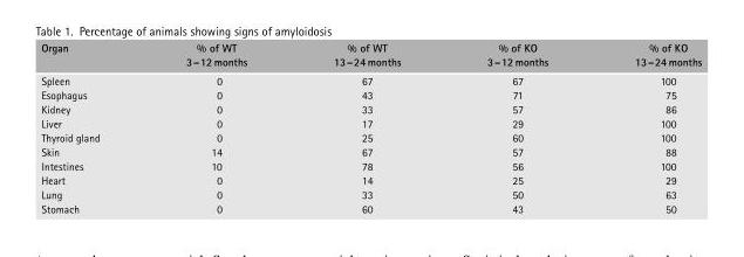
<table><thead><tr><td rowspan="2">Organ</td><td rowspan="2">% of WT 3–12 months</td><td rowspan="2">% of WT 13–24 months</td><td rowspan="2">% of KO 3–12 months</td><td rowspan="2">% of KO 13–24 months</td></tr><tr></tr></thead><tbody><tr><td>Spleen</td><td>0</td><td>67</td><td>67</td><td>100</td></tr><tr><td>Esophagus</td><td>0</td><td>43</td><td>71</td><td>75</td></tr><tr><td>Kidney</td><td>0</td><td>33</td><td>57</td><td>86</td></tr><tr><td>Liver</td><td>0</td><td>17</td><td>29</td><td>100</td></tr><tr><td>Thyroid gland</td><td>0</td><td>25</td><td>60</td><td>100</td></tr><tr><td>Skin</td><td>14</td><td>67</td><td>57</td><td>88</td></tr><tr><td>Intestines</td><td>10</td><td>78</td><td>56</td><td>100</td></tr><tr><td>Heart</td><td>0</td><td>14</td><td>25</td><td>29</td></tr><tr><td>Lung</td><td>0</td><td>33</td><td>50</td><td>63</td></tr><tr><td>Stomach</td><td>0</td><td>60</td><td>43</td><td>50</td></tr></tbody></table>